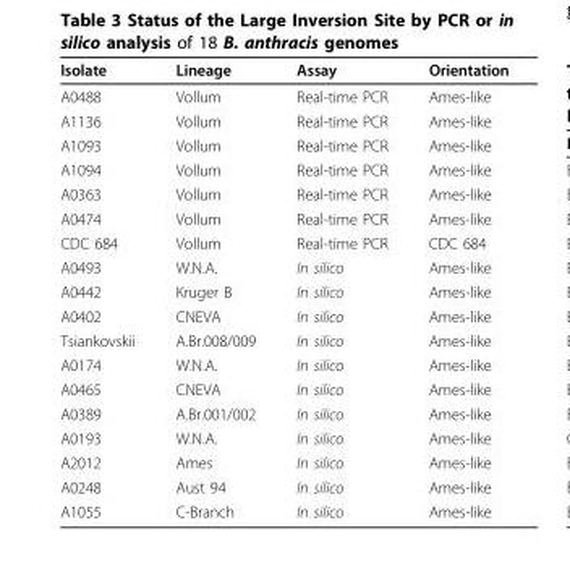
<table><thead><tr><td>Isolate</td><td>Lineage</td><td>Assay</td><td>Orientation</td></tr></thead><tbody><tr><td>A0488</td><td>Vollum</td><td>Real-time PCR</td><td>Ames-like</td></tr><tr><td>A1136</td><td>Vollum</td><td>Real-time PCR</td><td>Ames-like</td></tr><tr><td>A1093</td><td>Vollum</td><td>Real-time PCR</td><td>Ames-like</td></tr><tr><td>A1094</td><td>Vollum</td><td>Real-time PCR</td><td>Ames-like</td></tr><tr><td>A0363</td><td>Vollum</td><td>Real-time PCR</td><td>Ames-like</td></tr><tr><td>A0474</td><td>Vollum</td><td>Real-time PCR</td><td>Ames-like</td></tr><tr><td>CDC 684</td><td>Vollum</td><td>Real-time PCR</td><td>CDC 684</td></tr><tr><td>A0493</td><td>W.N.A.</td><td>In silico</td><td>Ames-like</td></tr><tr><td>A0442</td><td>Kruger B</td><td>In silico</td><td>Ames-like</td></tr><tr><td>A0402</td><td>CNEVA</td><td>In silico</td><td>Ames-like</td></tr><tr><td>Tsiankovskii</td><td>A.Br.008/009</td><td>In silico</td><td>Ames-like</td></tr><tr><td>A0174</td><td>W.N.A.</td><td>In silico</td><td>Ames-like</td></tr><tr><td>A0465</td><td>CNEVA</td><td>In silico</td><td>Ames-like</td></tr><tr><td>A0389</td><td>A.Br.001/002</td><td>In silico</td><td>Ames-like</td></tr><tr><td>A0193</td><td>W.N.A.</td><td>In silico</td><td>Ames-like</td></tr><tr><td>A2012</td><td>Ames</td><td>In silico</td><td>Ames-like</td></tr><tr><td>A0248</td><td>Aust 94</td><td>In silico</td><td>Ames-like</td></tr><tr><td>A1055</td><td>C-Branch</td><td>In silico</td><td>Ames-like</td></tr></tbody></table>